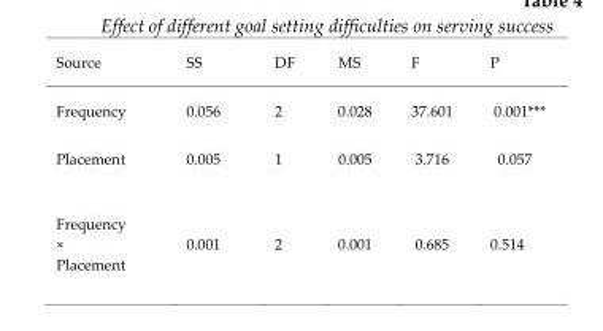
<table><thead><tr><td>Source</td><td>SS</td><td>DF</td><td>MS</td><td>F</td><td>P</td></tr></thead><tbody><tr><td>Frequency</td><td>0.056</td><td>2</td><td>0.028</td><td>37.601</td><td>0.001***</td></tr><tr><td>Placement</td><td>0.005</td><td>1</td><td>0.005</td><td>3.716</td><td>0.057</td></tr><tr><td>Frequency × Placement</td><td>0.001</td><td>2</td><td>0.001</td><td>0.685</td><td>0.514</td></tr></tbody></table>